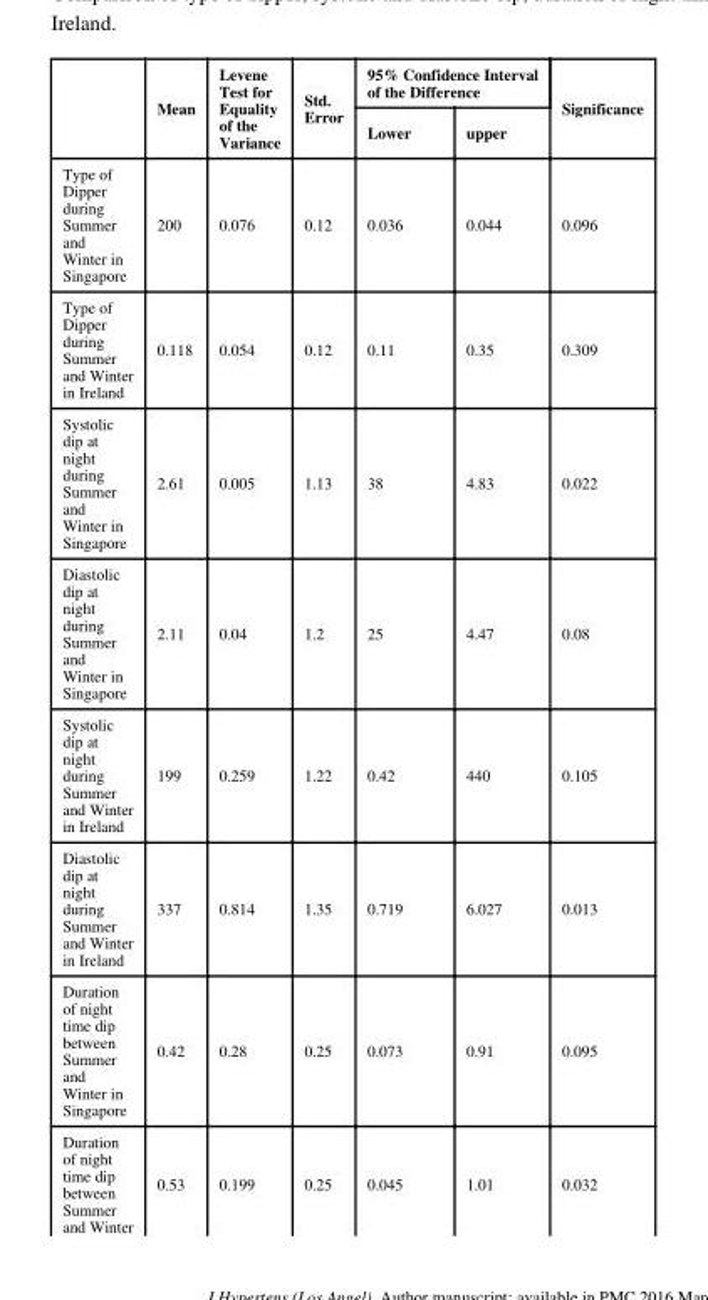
<table><thead><tr><td rowspan="2"></td><td rowspan="2">Mean</td><td rowspan="2">Levene Test for Equality of the Variance</td><td rowspan="2">Std. Error</td><td colspan="2">95% Confidence Interval of the Difference</td><td rowspan="2">Significance</td></tr><tr><td>Lower</td><td>upper</td></tr></thead><tbody><tr><td>Type of Dipper during Summer and Winter in Singapore</td><td>200</td><td>0.076</td><td>0.12</td><td>0.036</td><td>0.044</td><td>0.096</td></tr><tr><td>Type of Dipper during Summer and Winter in Ireland</td><td>0.118</td><td>0.054</td><td>0.12</td><td>0.11</td><td>0.35</td><td>0.309</td></tr><tr><td>Systolic dip at night during Summer and Winter in Singapore</td><td>2.61</td><td>0.005</td><td>1.13</td><td>38</td><td>4.83</td><td>0.022</td></tr><tr><td>Diastolic dip at night during Summer and Winter in Singapore</td><td>2.11</td><td>0.04</td><td>1.2</td><td>25</td><td>4.47</td><td>0.08</td></tr><tr><td>Systolic dip at night during Summer and Winter in Ireland</td><td>199</td><td>0.259</td><td>1.22</td><td>0.42</td><td>440</td><td>0.105</td></tr><tr><td>Diastolic dip at night during Summer and Winter in Ireland</td><td>337</td><td>0.814</td><td>1.35</td><td>0.719</td><td>6.027</td><td>0.013</td></tr><tr><td>Duration of night time dip between Summer and Winter in Singapore</td><td>0.42</td><td>0.28</td><td>0.25</td><td>0.073</td><td>0.91</td><td>0.095</td></tr><tr><td>Duration of night time dip between Summer and Winter</td><td>0.53</td><td>0.199</td><td>0.25</td><td>0.045</td><td>1.01</td><td>0.032</td></tr></tbody></table>